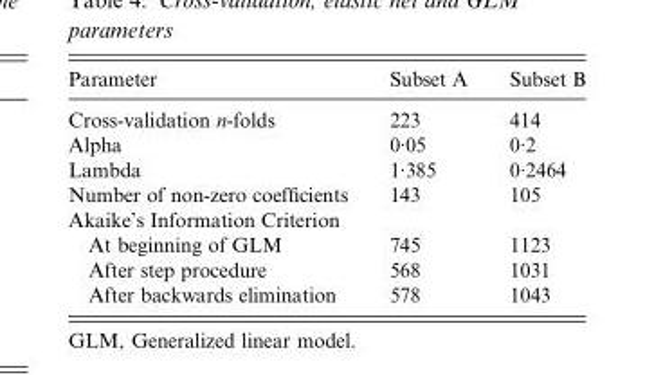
<table><thead><tr><td>Parameter</td><td>Subset A</td><td>Subset B</td></tr></thead><tbody><tr><td>Cross-validation n-folds</td><td>223</td><td>414</td></tr><tr><td>Alpha</td><td>0·05</td><td>0·2</td></tr><tr><td>Lambda</td><td>1·385</td><td>0·2464</td></tr><tr><td>Number of non-zero coefficients</td><td>143</td><td>105</td></tr><tr><td colspan="3">Akaike’s Information Criterion</td></tr><tr><td>At beginning of GLM</td><td>745</td><td>1123</td></tr><tr><td>After step procedure</td><td>568</td><td>1031</td></tr><tr><td>After backwards elimination</td><td>578</td><td>1043</td></tr></tbody></table>